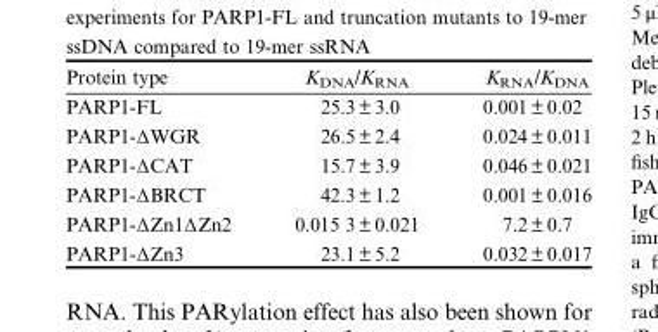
<table><thead><tr><td>Protein type</td><td>K<sub>DNA</sub>/K<sub>RNA</sub></td><td>K<sub>RNA</sub>/K<sub>DNA</sub></td></tr></thead><tbody><tr><td>PARP1-FL</td><td>25.3 ± 3.0</td><td>0.001 ± 0.02</td></tr><tr><td>PARP1-ΔWGR</td><td>26.5 ± 2.4</td><td>0.024 ± 0.011</td></tr><tr><td>PARP1-ΔCAT</td><td>15.7 ± 3.9</td><td>0.046 ± 0.021</td></tr><tr><td>PARP1-ΔBRCT</td><td>42.3 ± 1.2</td><td>0.001 ± 0.016</td></tr><tr><td>PARP1-ΔZn1ΔZn2</td><td>0.015 3 ± 0.021</td><td>7.2 ± 0.7</td></tr><tr><td>PARP1-ΔZn3</td><td>23.1 ± 5.2</td><td>0.032 ± 0.017</td></tr></tbody></table>